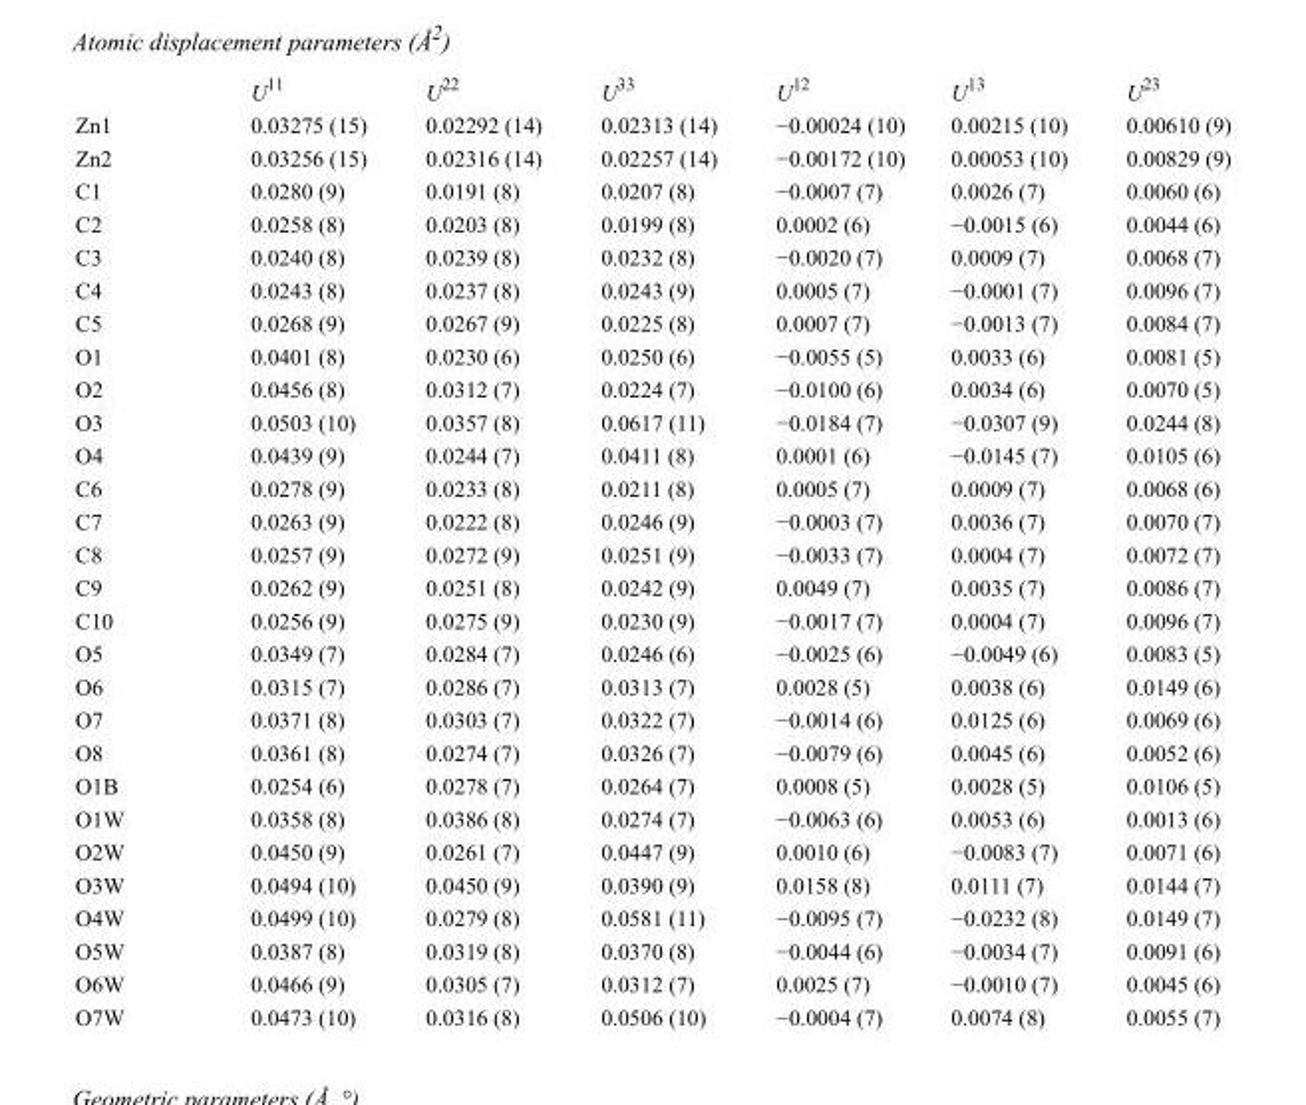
<table><thead><tr><td></td><td>U<sup>11</sup></td><td>U<sup>22</sup></td><td>U<sup>33</sup></td><td>U<sup>12</sup></td><td>U<sup>13</sup></td><td>U<sup>23</sup></td></tr></thead><tbody><tr><td>Zn1</td><td>0.03275 (15)</td><td>0.02292 (14)</td><td>0.02313 (14)</td><td>−0.00024 (10)</td><td>0.00215 (10)</td><td>0.00610 (9)</td></tr><tr><td>Zn2</td><td>0.03256 (15)</td><td>0.02316 (14)</td><td>0.02257 (14)</td><td>−0.00172 (10)</td><td>0.00053 (10)</td><td>0.00829 (9)</td></tr><tr><td>C1</td><td>0.0280 (9)</td><td>0.0191 (8)</td><td>0.0207 (8)</td><td>−0.0007 (7)</td><td>0.0026 (7)</td><td>0.0060 (6)</td></tr><tr><td>C2</td><td>0.0258 (8)</td><td>0.0203 (8)</td><td>0.0199 (8)</td><td>0.0002 (6)</td><td>−0.0015 (6)</td><td>0.0044 (6)</td></tr><tr><td>C3</td><td>0.0240 (8)</td><td>0.0239 (8)</td><td>0.0232 (8)</td><td>−0.0020 (7)</td><td>0.0009 (7)</td><td>0.0068 (7)</td></tr><tr><td>C4</td><td>0.0243 (8)</td><td>0.0237 (8)</td><td>0.0243 (9)</td><td>0.0005 (7)</td><td>−0.0001 (7)</td><td>0.0096 (7)</td></tr><tr><td>C5</td><td>0.0268 (9)</td><td>0.0267 (9)</td><td>0.0225 (8)</td><td>0.0007 (7)</td><td>−0.0013 (7)</td><td>0.0084 (7)</td></tr><tr><td>O1</td><td>0.0401 (8)</td><td>0.0230 (6)</td><td>0.0250 (6)</td><td>−0.0055 (5)</td><td>0.0033 (6)</td><td>0.0081 (5)</td></tr><tr><td>O2</td><td>0.0456 (8)</td><td>0.0312 (7)</td><td>0.0224 (7)</td><td>−0.0100 (6)</td><td>0.0034 (6)</td><td>0.0070 (5)</td></tr><tr><td>O3</td><td>0.0503 (10)</td><td>0.0357 (8)</td><td>0.0617 (11)</td><td>−0.0184 (7)</td><td>−0.0307 (9)</td><td>0.0244 (8)</td></tr><tr><td>O4</td><td>0.0439 (9)</td><td>0.0244 (7)</td><td>0.0411 (8)</td><td>0.0001 (6)</td><td>−0.0145 (7)</td><td>0.0105 (6)</td></tr><tr><td>C6</td><td>0.0278 (9)</td><td>0.0233 (8)</td><td>0.0211 (8)</td><td>0.0005 (7)</td><td>0.0009 (7)</td><td>0.0068 (6)</td></tr><tr><td>C7</td><td>0.0263 (9)</td><td>0.0222 (8)</td><td>0.0246 (9)</td><td>−0.0003 (7)</td><td>0.0036 (7)</td><td>0.0070 (7)</td></tr><tr><td>C8</td><td>0.0257 (9)</td><td>0.0272 (9)</td><td>0.0251 (9)</td><td>−0.0033 (7)</td><td>0.0004 (7)</td><td>0.0072 (7)</td></tr><tr><td>C9</td><td>0.0262 (9)</td><td>0.0251 (8)</td><td>0.0242 (9)</td><td>0.0049 (7)</td><td>0.0035 (7)</td><td>0.0086 (7)</td></tr><tr><td>C10</td><td>0.0256 (9)</td><td>0.0275 (9)</td><td>0.0230 (9)</td><td>−0.0017 (7)</td><td>0.0004 (7)</td><td>0.0096 (7)</td></tr><tr><td>O5</td><td>0.0349 (7)</td><td>0.0284 (7)</td><td>0.0246 (6)</td><td>−0.0025 (6)</td><td>−0.0049 (6)</td><td>0.0083 (5)</td></tr><tr><td>O6</td><td>0.0315 (7)</td><td>0.0286 (7)</td><td>0.0313 (7)</td><td>0.0028 (5)</td><td>0.0038 (6)</td><td>0.0149 (6)</td></tr><tr><td>O7</td><td>0.0371 (8)</td><td>0.0303 (7)</td><td>0.0322 (7)</td><td>−0.0014 (6)</td><td>0.0125 (6)</td><td>0.0069 (6)</td></tr><tr><td>O8</td><td>0.0361 (8)</td><td>0.0274 (7)</td><td>0.0326 (7)</td><td>−0.0079 (6)</td><td>0.0045 (6)</td><td>0.0052 (6)</td></tr><tr><td>O1B</td><td>0.0254 (6)</td><td>0.0278 (7)</td><td>0.0264 (7)</td><td>0.0008 (5)</td><td>0.0028 (5)</td><td>0.0106 (5)</td></tr><tr><td>O1W</td><td>0.0358 (8)</td><td>0.0386 (8)</td><td>0.0274 (7)</td><td>−0.0063 (6)</td><td>0.0053 (6)</td><td>0.0013 (6)</td></tr><tr><td>O2W</td><td>0.0450 (9)</td><td>0.0261 (7)</td><td>0.0447 (9)</td><td>0.0010 (6)</td><td>−0.0083 (7)</td><td>0.0071 (6)</td></tr><tr><td>O3W</td><td>0.0494 (10)</td><td>0.0450 (9)</td><td>0.0390 (9)</td><td>0.0158 (8)</td><td>0.0111 (7)</td><td>0.0144 (7)</td></tr><tr><td>O4W</td><td>0.0499 (10)</td><td>0.0279 (8)</td><td>0.0581 (11)</td><td>−0.0095 (7)</td><td>−0.0232 (8)</td><td>0.0149 (7)</td></tr><tr><td>O5W</td><td>0.0387 (8)</td><td>0.0319 (8)</td><td>0.0370 (8)</td><td>−0.0044 (6)</td><td>−0.0034 (7)</td><td>0.0091 (6)</td></tr><tr><td>O6W</td><td>0.0466 (9)</td><td>0.0305 (7)</td><td>0.0312 (7)</td><td>0.0025 (7)</td><td>−0.0010 (7)</td><td>0.0045 (6)</td></tr><tr><td>O7W</td><td>0.0473 (10)</td><td>0.0316 (8)</td><td>0.0506 (10)</td><td>−0.0004 (7)</td><td>0.0074 (8)</td><td>0.0055 (7)</td></tr></tbody></table>